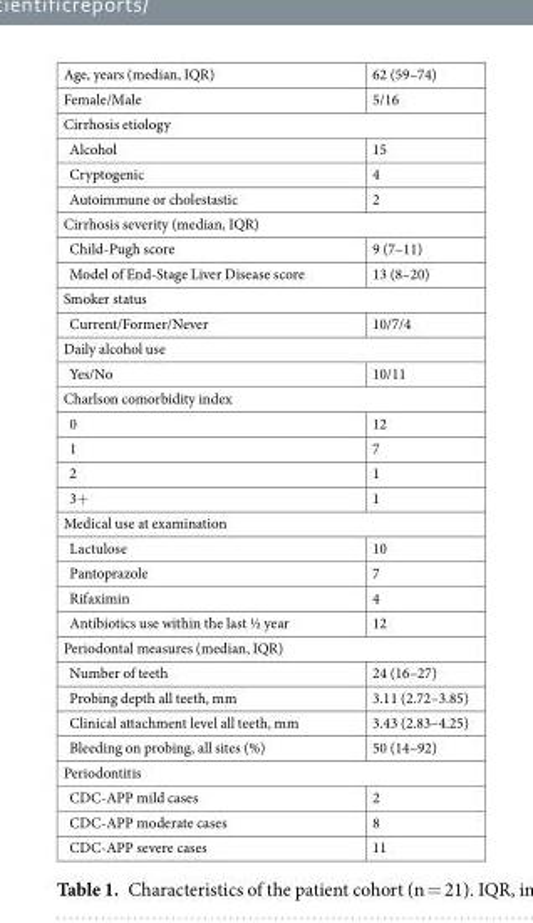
<table><tbody><tr><td>Age, years (median, IQR)</td><td>62 (59–74)</td></tr><tr><td>Female/Male</td><td>5/16</td></tr><tr><td colspan="2">Cirrhosis etiology</td></tr><tr><td>Alcohol</td><td>15</td></tr><tr><td>Cryptogenic</td><td>4</td></tr><tr><td>Autoimmune or cholestastic</td><td>2</td></tr><tr><td colspan="2">Cirrhosis severity (median, IQR)</td></tr><tr><td>Child-Pugh score</td><td>9 (7–11)</td></tr><tr><td>Model of End-Stage Liver Disease score</td><td>13 (8–20)</td></tr><tr><td colspan="2">Smoker status</td></tr><tr><td>Current/Former/Never</td><td>10/7/4</td></tr><tr><td colspan="2">Daily alcohol use</td></tr><tr><td>Yes/No</td><td>10/11</td></tr><tr><td colspan="2">Charlson comorbidity index</td></tr><tr><td>0</td><td>12</td></tr><tr><td>1</td><td>7</td></tr><tr><td>2</td><td>1</td></tr><tr><td>3+</td><td>1</td></tr><tr><td colspan="2">Medical use at examination</td></tr><tr><td>Lactulose</td><td>10</td></tr><tr><td>Pantoprazole</td><td>7</td></tr><tr><td>Rifaximin</td><td>4</td></tr><tr><td>Antibiotics use within the last ½ year</td><td>12</td></tr><tr><td colspan="2">Periodontal measures (median, IQR)</td></tr><tr><td>Number of teeth</td><td>24 (16–27)</td></tr><tr><td>Probing depth all teeth, mm</td><td>3.11 (2.72–3.85)</td></tr><tr><td>Clinical attachment level all teeth, mm</td><td>3.43 (2.83–4.25)</td></tr><tr><td>Bleeding on probing, all sites (%)</td><td>50 (14–92)</td></tr><tr><td colspan="2">Periodontitis</td></tr><tr><td>CDC-APP mild cases</td><td>2</td></tr><tr><td>CDC-APP moderate cases</td><td>8</td></tr><tr><td>CDC-APP severe cases</td><td>11</td></tr></tbody></table>